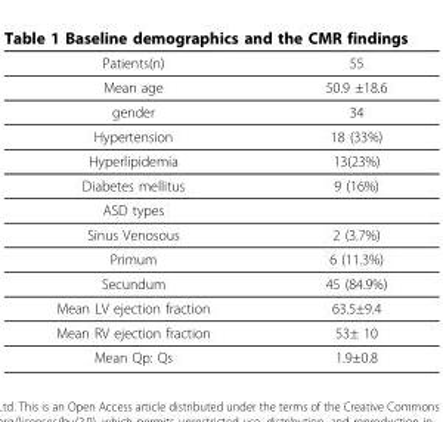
<table><thead><tr><td>Patients(n)</td><td>55</td></tr></thead><tbody><tr><td>Mean age</td><td>50.9 ±18.6</td></tr><tr><td>gender</td><td>34</td></tr><tr><td>Hypertension</td><td>18 (33%)</td></tr><tr><td>Hyperlipidemia</td><td>13(23%)</td></tr><tr><td>Diabetes mellitus</td><td>9 (16%)</td></tr><tr><td colspan="2">ASD types</td></tr><tr><td>Sinus Venosous</td><td>2 (3.7%)</td></tr><tr><td>Primum</td><td>6 (11.3%)</td></tr><tr><td>Secundum</td><td>45 (84.9%)</td></tr><tr><td>Mean LV ejection fraction</td><td>63.5±9.4</td></tr><tr><td>Mean RV ejection fraction</td><td>53± 10</td></tr><tr><td>Mean Qp: Qs</td><td>1.9±0.8</td></tr></tbody></table>